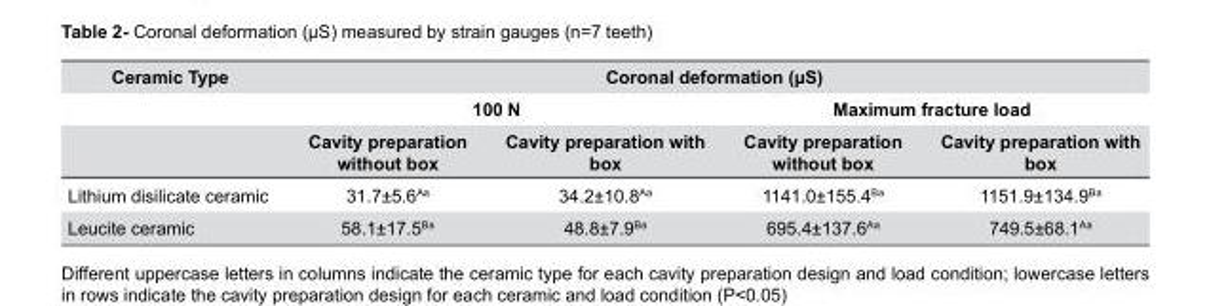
<table><thead><tr><td rowspan="3">Ceramic Type</td><td colspan="4">Coronal deformation (µS)</td></tr><tr><td colspan="2">100 N</td><td colspan="2">Maximum fracture load</td></tr><tr><td>Cavity preparation without box</td><td>Cavity preparation with box</td><td>Cavity preparation without box</td><td>Cavity preparation with box</td></tr></thead><tbody><tr><td>Lithium disilicate ceramic</td><td>31.7±5.6<sup>Aa</sup></td><td>34.2±10.8<sup>Aa</sup></td><td>1141.0±155.4<sup>Ba</sup></td><td>1151.9±134.9<sup>Ba</sup></td></tr><tr><td>Leucite ceramic</td><td>58.1±17.5<sup>Ba</sup></td><td>48.8±7.9<sup>Ba</sup></td><td>695.4±137.6<sup>Aa</sup></td><td>749.5±68.1<sup>Aa</sup></td></tr></tbody></table>